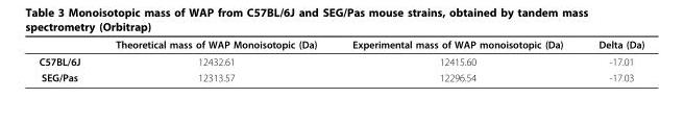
<table><thead><tr><td></td><td>Theoretical mass of WAP Monoisotopic (Da)</td><td>Experimental mass of WAP monoisotopic (Da)</td><td>Delta (Da)</td></tr></thead><tbody><tr><td>C57BL/6J</td><td>12432.61</td><td>12415.60</td><td>-17.01</td></tr><tr><td>SEG/Pas</td><td>12313.57</td><td>12296.54</td><td>-17.03</td></tr></tbody></table>